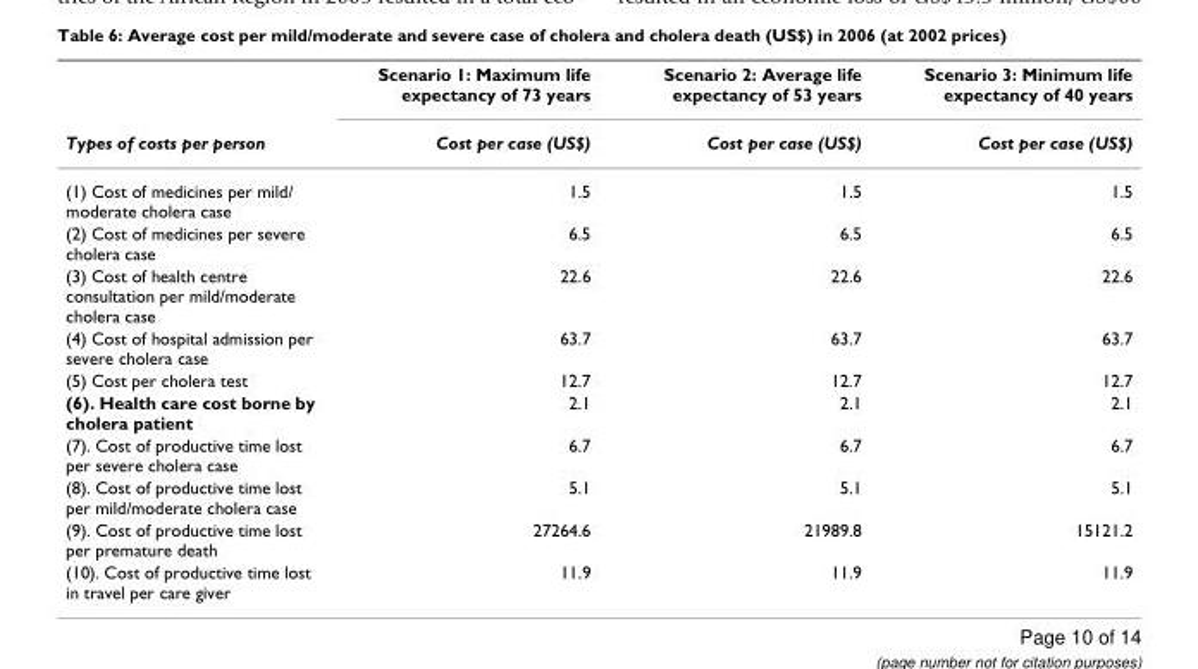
<table><thead><tr><td rowspan="2">Types of costs per person</td><td rowspan="2">Scenario 1: Maximum life expectancy of 73 years Cost per case (US$)</td><td rowspan="2">Scenario 2: Average life expectancy of 53 years Cost per case (US$)</td><td rowspan="2">Scenario 3: Minimum life expectancy of 40 years Cost per case (US$)</td></tr><tr></tr></thead><tbody><tr><td>(1) Cost of medicines per mild/ moderate cholera case</td><td>1.5</td><td>1.5</td><td>1.5</td></tr><tr><td>(2) Cost of medicines per severe cholera case</td><td>6.5</td><td>6.5</td><td>6.5</td></tr><tr><td>(3) Cost of health centre consultation per mild/moderate cholera case</td><td>22.6</td><td>22.6</td><td>22.6</td></tr><tr><td>(4) Cost of hospital admission per severe cholera case</td><td>63.7</td><td>63.7</td><td>63.7</td></tr><tr><td>(5) Cost per cholera test</td><td>12.7</td><td>12.7</td><td>12.7</td></tr><tr><td>(6). Health care cost borne by cholera patient</td><td>2.1</td><td>2.1</td><td>2.1</td></tr><tr><td>(7). Cost of productive time lost per severe cholera case</td><td>6.7</td><td>6.7</td><td>6.7</td></tr><tr><td>(8). Cost of productive time lost per mild/moderate cholera case</td><td>5.1</td><td>5.1</td><td>5.1</td></tr><tr><td>(9). Cost of productive time lost per premature death</td><td>27264.6</td><td>21989.8</td><td>15121.2</td></tr><tr><td>(10). Cost of productive time lost in travel per care giver</td><td>11.9</td><td>11.9</td><td>11.9</td></tr></tbody></table>